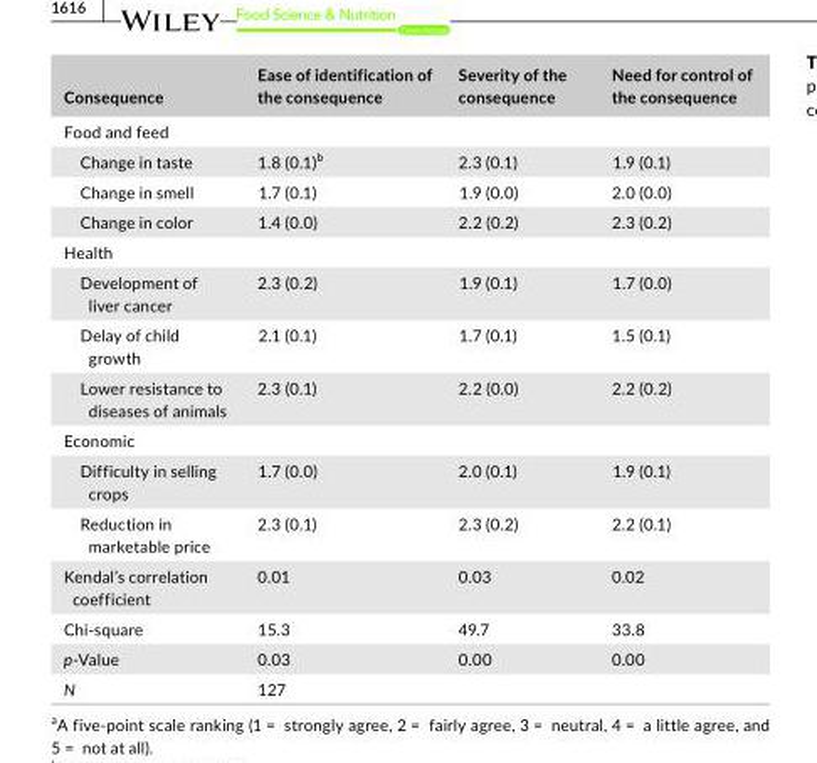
<table><thead><tr><td>Consequence</td><td>Ease of identification of the consequence</td><td>Severity of the consequence</td><td>Need for control of the consequence</td></tr></thead><tbody><tr><td colspan="4">Food and feed</td></tr><tr><td>Change in taste</td><td>1.8 (0.1)<sup>b</sup></td><td>2.3 (0.1)</td><td>1.9 (0.1)</td></tr><tr><td>Change in smell</td><td>1.7 (0.1)</td><td>1.9 (0.0)</td><td>2.0 (0.0)</td></tr><tr><td>Change in color</td><td>1.4 (0.0)</td><td>2.2 (0.2)</td><td>2.3 (0.2)</td></tr><tr><td colspan="4">Health</td></tr><tr><td>Development of liver cancer</td><td>2.3 (0.2)</td><td>1.9 (0.1)</td><td>1.7 (0.0)</td></tr><tr><td>Delay of child growth</td><td>2.1 (0.1)</td><td>1.7 (0.1)</td><td>1.5 (0.1)</td></tr><tr><td>Lower resistance to diseases of animals</td><td>2.3 (0.1)</td><td>2.2 (0.0)</td><td>2.2 (0.2)</td></tr><tr><td colspan="4">Economic</td></tr><tr><td>Difficulty in selling crops</td><td>1.7 (0.0)</td><td>2.0 (0.1)</td><td>1.9 (0.1)</td></tr><tr><td>Reduction in marketable price</td><td>2.3 (0.1)</td><td>2.3 (0.2)</td><td>2.2 (0.1)</td></tr><tr><td>Kendal’s correlation coefficient</td><td>0.01</td><td>0.03</td><td>0.02</td></tr><tr><td>Chi- square</td><td>15.3</td><td>49.7</td><td>33.8</td></tr><tr><td>p- Value</td><td>0.03</td><td>0.00</td><td>0.00</td></tr><tr><td>N</td><td colspan="3">127</td></tr></tbody></table>